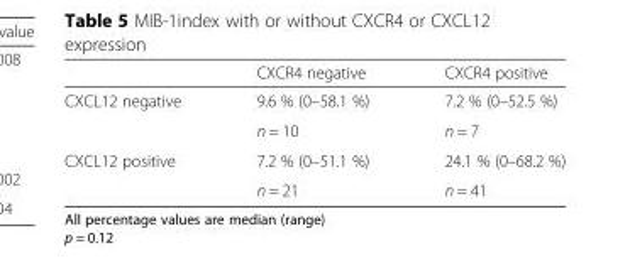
<table><thead><tr><td></td><td>CXCR4 negative</td><td>CXCR4 positive</td></tr></thead><tbody><tr><td rowspan="2">CXCL12 negative</td><td>9.6 % (0–58.1 %)</td><td>7.2 % (0–52.5 %)</td></tr><tr><td>n = 10</td><td>n = 7</td></tr><tr><td rowspan="2">CXCL12 positive</td><td>7.2 % (0–51.1 %)</td><td>24.1 % (0–68.2 %)</td></tr><tr><td>n = 21</td><td>n = 41</td></tr></tbody></table>